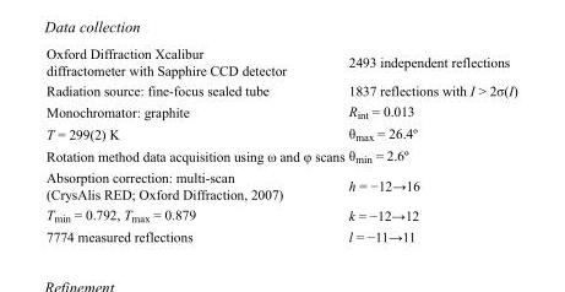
<table><tbody><tr><td>Oxford Diffraction Xcalibur diffractometer with Sapphire CCD detector</td><td>2493 independent reflections</td></tr><tr><td>Radiation source: fine-focus sealed tube</td><td>1837 reflections with I &gt; 2σ(I)</td></tr><tr><td>Monochromator: graphite</td><td>R<sub>int</sub> = 0.013</td></tr><tr><td>T = 299(2) K</td><td>θ<sub>max</sub> = 26.4º</td></tr><tr><td>Rotation method data acquisition using ω and φ scans</td><td>θ<sub>min</sub> = 2.6º</td></tr><tr><td>Absorption correction: multi-scan (CrysAlis RED; Oxford Diffraction, 2007)</td><td>h = −12→16</td></tr><tr><td>T<sub>min</sub> = 0.792, T<sub>max</sub> = 0.879</td><td>k = −12→12</td></tr><tr><td>7774 measured reflections</td><td>l = −11→11</td></tr></tbody></table>